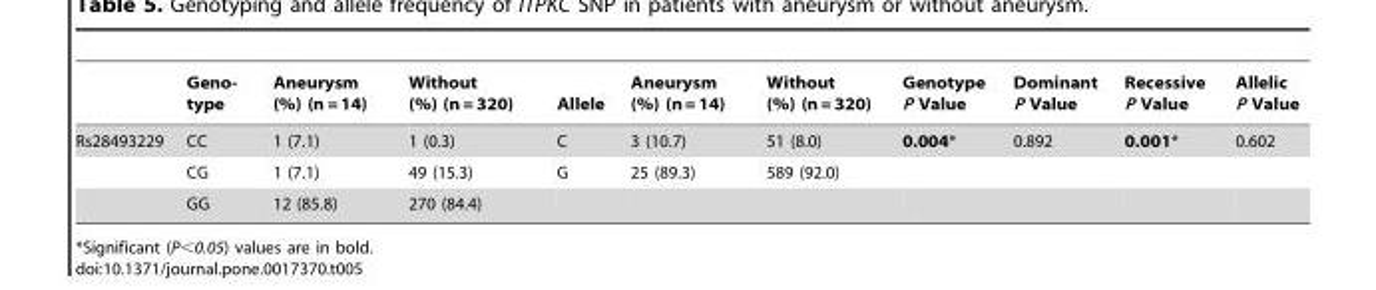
<table><thead><tr><td></td><td>Geno- type</td><td>Aneurysm (%) (n = 14)</td><td>Without (%) (n = 320)</td><td>Allele</td><td>Aneurysm (%) (n = 14)</td><td>Without (%) (n = 320)</td><td>Genotype P Value</td><td>Dominant P Value</td><td>Recessive P Value</td><td>Allelic P Value</td></tr></thead><tbody><tr><td rowspan="3">Rs28493229</td><td>CC</td><td>1 (7.1)</td><td>1 (0.3)</td><td>C</td><td>3 (10.7)</td><td>51 (8.0)</td><td>0.004*</td><td>0.892</td><td>0.001*</td><td>0.602</td></tr><tr><td>CG</td><td>1 (7.1)</td><td>49 (15.3)</td><td>G</td><td>25 (89.3)</td><td>589 (92.0)</td><td></td><td></td><td></td><td></td></tr><tr><td>GG</td><td>12 (85.8)</td><td>270 (84.4)</td><td></td><td></td><td></td><td></td><td></td><td></td><td></td></tr></tbody></table>